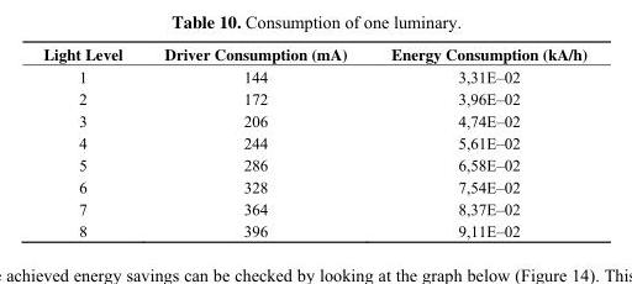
<table><thead><tr><td>Light Level</td><td>Driver Consumption (mA)</td><td>Energy Consumption (kA/h)</td></tr></thead><tbody><tr><td>1</td><td>144</td><td>3,31E–02</td></tr><tr><td>2</td><td>172</td><td>3,96E–02</td></tr><tr><td>3</td><td>206</td><td>4,74E–02</td></tr><tr><td>4</td><td>244</td><td>5,61E–02</td></tr><tr><td>5</td><td>286</td><td>6,58E–02</td></tr><tr><td>6</td><td>328</td><td>7,54E–02</td></tr><tr><td>7</td><td>364</td><td>8,37E–02</td></tr><tr><td>8</td><td>396</td><td>9,11E–02</td></tr></tbody></table>